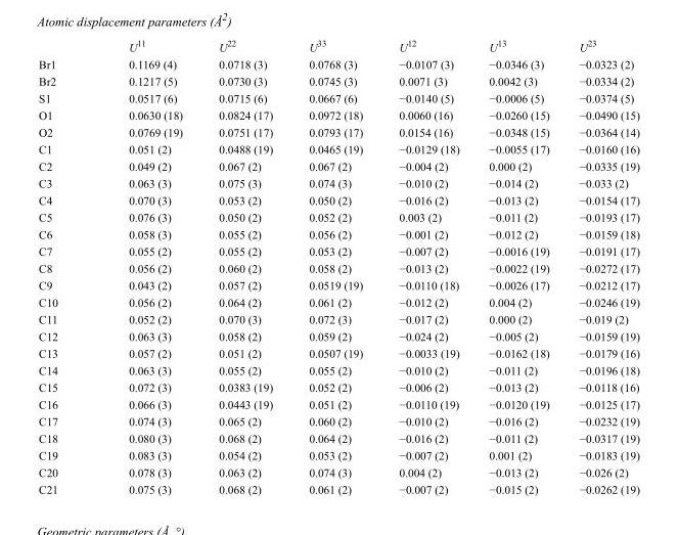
<table><thead><tr><td></td><td>U<sup>11</sup></td><td>U<sup>22</sup></td><td>U<sup>33</sup></td><td>U<sup>12</sup></td><td>U<sup>13</sup></td><td>U<sup>23</sup></td></tr></thead><tbody><tr><td>Br1</td><td>0.1169 (4)</td><td>0.0718 (3)</td><td>0.0768 (3)</td><td>−0.0107 (3)</td><td>−0.0346 (3)</td><td>−0.0323 (2)</td></tr><tr><td>Br2</td><td>0.1217 (5)</td><td>0.0730 (3)</td><td>0.0745 (3)</td><td>0.0071 (3)</td><td>0.0042 (3)</td><td>−0.0334 (2)</td></tr><tr><td>S1</td><td>0.0517 (6)</td><td>0.0715 (6)</td><td>0.0667 (6)</td><td>−0.0140 (5)</td><td>−0.0006 (5)</td><td>−0.0374 (5)</td></tr><tr><td>O1</td><td>0.0630 (18)</td><td>0.0824 (17)</td><td>0.0972 (18)</td><td>0.0060 (16)</td><td>−0.0260 (15)</td><td>−0.0490 (15)</td></tr><tr><td>O2</td><td>0.0769 (19)</td><td>0.0751 (17)</td><td>0.0793 (17)</td><td>0.0154 (16)</td><td>−0.0348 (15)</td><td>−0.0364 (14)</td></tr><tr><td>C1</td><td>0.051 (2)</td><td>0.0488 (19)</td><td>0.0465 (19)</td><td>−0.0129 (18)</td><td>−0.0055 (17)</td><td>−0.0160 (16)</td></tr><tr><td>C2</td><td>0.049 (2)</td><td>0.067 (2)</td><td>0.067 (2)</td><td>−0.004 (2)</td><td>0.000 (2)</td><td>−0.0335 (19)</td></tr><tr><td>C3</td><td>0.063 (3)</td><td>0.075 (3)</td><td>0.074 (3)</td><td>−0.010 (2)</td><td>−0.014 (2)</td><td>−0.033 (2)</td></tr><tr><td>C4</td><td>0.070 (3)</td><td>0.053 (2)</td><td>0.050 (2)</td><td>−0.016 (2)</td><td>−0.013 (2)</td><td>−0.0154 (17)</td></tr><tr><td>C5</td><td>0.076 (3)</td><td>0.050 (2)</td><td>0.052 (2)</td><td>0.003 (2)</td><td>−0.011 (2)</td><td>−0.0193 (17)</td></tr><tr><td>C6</td><td>0.058 (3)</td><td>0.055 (2)</td><td>0.056 (2)</td><td>−0.001 (2)</td><td>−0.012 (2)</td><td>−0.0159 (18)</td></tr><tr><td>C7</td><td>0.055 (2)</td><td>0.055 (2)</td><td>0.053 (2)</td><td>−0.007 (2)</td><td>−0.0016 (19)</td><td>−0.0191 (17)</td></tr><tr><td>C8</td><td>0.056 (2)</td><td>0.060 (2)</td><td>0.058 (2)</td><td>−0.013 (2)</td><td>−0.0022 (19)</td><td>−0.0272 (17)</td></tr><tr><td>C9</td><td>0.043 (2)</td><td>0.057 (2)</td><td>0.0519 (19)</td><td>−0.0110 (18)</td><td>−0.0026 (17)</td><td>−0.0212 (17)</td></tr><tr><td>C10</td><td>0.056 (2)</td><td>0.064 (2)</td><td>0.061 (2)</td><td>−0.012 (2)</td><td>0.004 (2)</td><td>−0.0246 (19)</td></tr><tr><td>C11</td><td>0.052 (2)</td><td>0.070 (3)</td><td>0.072 (3)</td><td>−0.017 (2)</td><td>0.000 (2)</td><td>−0.019 (2)</td></tr><tr><td>C12</td><td>0.063 (3)</td><td>0.058 (2)</td><td>0.059 (2)</td><td>−0.024 (2)</td><td>−0.005 (2)</td><td>−0.0159 (19)</td></tr><tr><td>C13</td><td>0.057 (2)</td><td>0.051 (2)</td><td>0.0507 (19)</td><td>−0.0033 (19)</td><td>−0.0162 (18)</td><td>−0.0179 (16)</td></tr><tr><td>C14</td><td>0.063 (3)</td><td>0.055 (2)</td><td>0.055 (2)</td><td>−0.010 (2)</td><td>−0.011 (2)</td><td>−0.0196 (18)</td></tr><tr><td>C15</td><td>0.072 (3)</td><td>0.0383 (19)</td><td>0.052 (2)</td><td>−0.006 (2)</td><td>−0.013 (2)</td><td>−0.0118 (16)</td></tr><tr><td>C16</td><td>0.066 (3)</td><td>0.0443 (19)</td><td>0.051 (2)</td><td>−0.0110 (19)</td><td>−0.0120 (19)</td><td>−0.0125 (17)</td></tr><tr><td>C17</td><td>0.074 (3)</td><td>0.065 (2)</td><td>0.060 (2)</td><td>−0.010 (2)</td><td>−0.016 (2)</td><td>−0.0232 (19)</td></tr><tr><td>C18</td><td>0.080 (3)</td><td>0.068 (2)</td><td>0.064 (2)</td><td>−0.016 (2)</td><td>−0.011 (2)</td><td>−0.0317 (19)</td></tr><tr><td>C19</td><td>0.083 (3)</td><td>0.054 (2)</td><td>0.053 (2)</td><td>−0.007 (2)</td><td>0.001 (2)</td><td>−0.0183 (19)</td></tr><tr><td>C20</td><td>0.078 (3)</td><td>0.063 (2)</td><td>0.074 (3)</td><td>0.004 (2)</td><td>−0.013 (2)</td><td>−0.026 (2)</td></tr><tr><td>C21</td><td>0.075 (3)</td><td>0.068 (2)</td><td>0.061 (2)</td><td>−0.007 (2)</td><td>−0.015 (2)</td><td>−0.0262 (19)</td></tr></tbody></table>